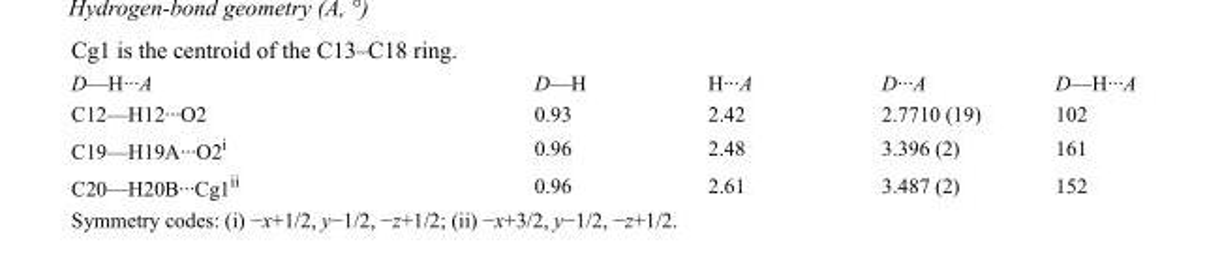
<table><tbody><tr><td>D—H···A</td><td>D—H</td><td>H···A</td><td>D···A</td><td>D—H···A</td></tr><tr><td>C12—H12···O2</td><td>0.93</td><td>2.42</td><td>2.7710 (19)</td><td>102</td></tr><tr><td>C19—H19A···O2<sup>i</sup></td><td>0.96</td><td>2.48</td><td>3.396 (2)</td><td>161</td></tr><tr><td>C20—H20B···Cg1<sup>ii</sup></td><td>0.96</td><td>2.61</td><td>3.487 (2)</td><td>152</td></tr></tbody></table>